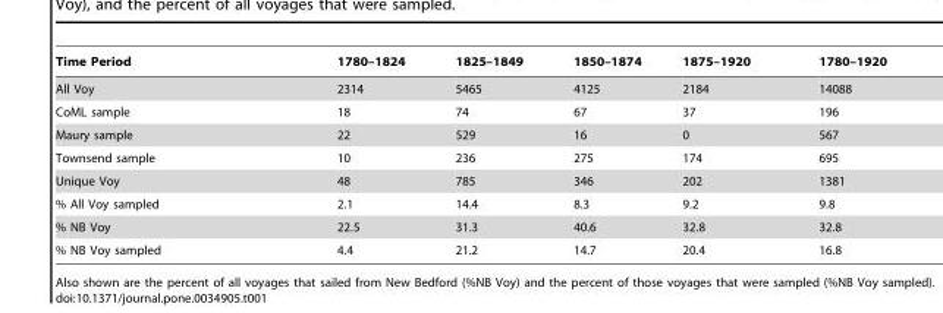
<table><thead><tr><td>Time Period</td><td>1780–1824</td><td>1825–1849</td><td>1850–1874</td><td>1875–1920</td><td>1780–1920</td></tr></thead><tbody><tr><td>All Voy</td><td>2314</td><td>5465</td><td>4125</td><td>2184</td><td>14088</td></tr><tr><td>CoML sample</td><td>18</td><td>74</td><td>67</td><td>37</td><td>196</td></tr><tr><td>Maury sample</td><td>22</td><td>529</td><td>16</td><td>0</td><td>567</td></tr><tr><td>Townsend sample</td><td>10</td><td>236</td><td>275</td><td>174</td><td>695</td></tr><tr><td>Unique Voy</td><td>48</td><td>785</td><td>346</td><td>202</td><td>1381</td></tr><tr><td>% All Voy sampled</td><td>2.1</td><td>14.4</td><td>8.3</td><td>9.2</td><td>9.8</td></tr><tr><td>% NB Voy</td><td>22.5</td><td>31.3</td><td>40.6</td><td>32.8</td><td>32.8</td></tr><tr><td>% NB Voy sampled</td><td>4.4</td><td>21.2</td><td>14.7</td><td>20.4</td><td>16.8</td></tr></tbody></table>